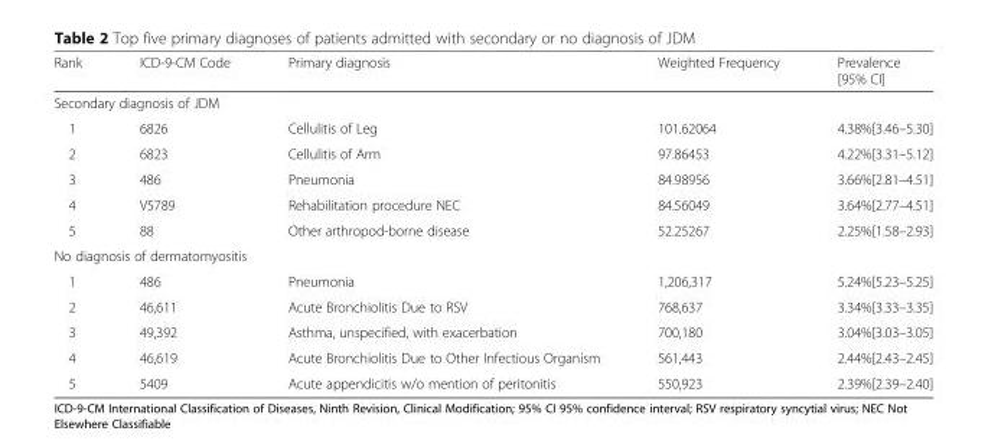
<table><thead><tr><td>Rank</td><td>ICD-9-CM Code</td><td>Primary diagnosis</td><td>Weighted Frequency</td><td>Prevalence [95% CI]</td></tr></thead><tbody><tr><td colspan="5">Secondary diagnosis of JDM</td></tr><tr><td>1</td><td>6826</td><td>Cellulitis of Leg</td><td>101.62064</td><td>4.38%[3.46–5.30]</td></tr><tr><td>2</td><td>6823</td><td>Cellulitis of Arm</td><td>97.86453</td><td>4.22%[3.31–5.12]</td></tr><tr><td>3</td><td>486</td><td>Pneumonia</td><td>84.98956</td><td>3.66%[2.81–4.51]</td></tr><tr><td>4</td><td>V5789</td><td>Rehabilitation procedure NEC</td><td>84.56049</td><td>3.64%[2.77–4.51]</td></tr><tr><td>5</td><td>88</td><td>Other arthropod-borne disease</td><td>52.25267</td><td>2.25%[1.58–2.93]</td></tr><tr><td colspan="5">No diagnosis of dermatomyositis</td></tr><tr><td>1</td><td>486</td><td>Pneumonia</td><td>1,206,317</td><td>5.24%[5.23–5.25]</td></tr><tr><td>2</td><td>46,611</td><td>Acute Bronchiolitis Due to RSV</td><td>768,637</td><td>3.34%[3.33–3.35]</td></tr><tr><td>3</td><td>49,392</td><td>Asthma, unspecified, with exacerbation</td><td>700,180</td><td>3.04%[3.03–3.05]</td></tr><tr><td>4</td><td>46,619</td><td>Acute Bronchiolitis Due to Other Infectious Organism</td><td>561,443</td><td>2.44%[2.43–2.45]</td></tr><tr><td>5</td><td>5409</td><td>Acute appendicitis w/o mention of peritonitis</td><td>550,923</td><td>2.39%[2.39–2.40]</td></tr></tbody></table>